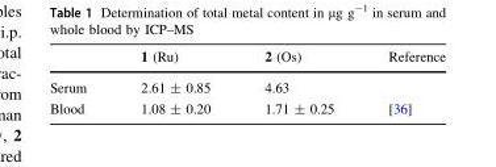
<table><thead><tr><td></td><td>1 (Ru)</td><td>2 (Os)</td><td>Reference</td></tr></thead><tbody><tr><td>Serum</td><td>2.61 ± 0.85</td><td>4.63</td><td></td></tr><tr><td>Blood</td><td>1.08 ± 0.20</td><td>1.71 ± 0.25</td><td>[36]</td></tr></tbody></table>